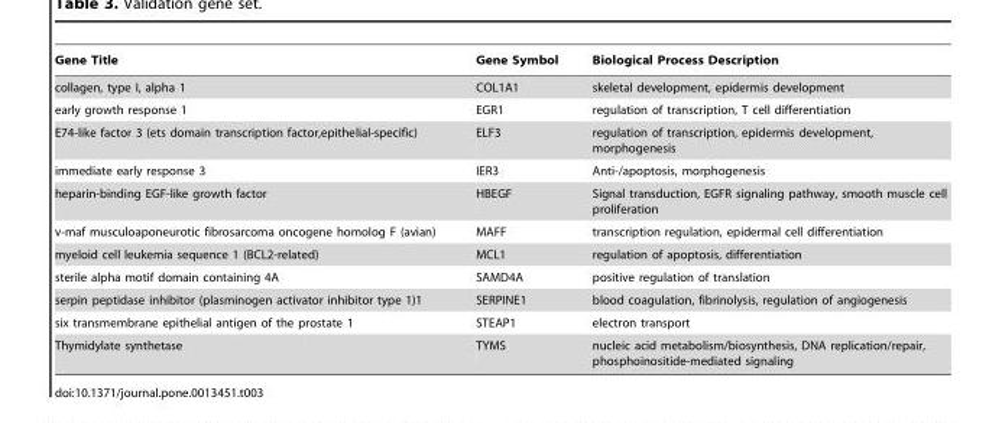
<table><thead><tr><td>Gene Title</td><td>Gene Symbol</td><td>Biological Process Description</td></tr></thead><tbody><tr><td>collagen, type I, alpha 1</td><td>COL1A1</td><td>skeletal development, epidermis development</td></tr><tr><td>early growth response 1</td><td>EGR1</td><td>regulation of transcription, T cell differentiation</td></tr><tr><td>E74-like factor 3 (ets domain transcription factor,epithelial-specific)</td><td>ELF3</td><td>regulation of transcription, epidermis development, morphogenesis</td></tr><tr><td>immediate early response 3</td><td>IER3</td><td>Anti-/apoptosis, morphogenesis</td></tr><tr><td>heparin-binding EGF-like growth factor</td><td>HBEGF</td><td>Signal transduction, EGFR signaling pathway, smooth muscle cell proliferation</td></tr><tr><td>v-maf musculoaponeurotic fibrosarcoma oncogene homolog F (avian)</td><td>MAFF</td><td>transcription regulation, epidermal cell differentiation</td></tr><tr><td>myeloid cell leukemia sequence 1 (BCL2-related)</td><td>MCL1</td><td>regulation of apoptosis, differentiation</td></tr><tr><td>sterile alpha motif domain containing 4A</td><td>SAMD4A</td><td>positive regulation of translation</td></tr><tr><td>serpin peptidase inhibitor (plasminogen activator inhibitor type 1)1</td><td>SERPINE1</td><td>blood coagulation, fibrinolysis, regulation of angiogenesis</td></tr><tr><td>six transmembrane epithelial antigen of the prostate 1</td><td>STEAP1</td><td>electron transport</td></tr><tr><td>Thymidylate synthetase</td><td>TYMS</td><td>nucleic acid metabolism/biosynthesis, DNA replication/repair, phosphoinositide-mediated signaling</td></tr></tbody></table>